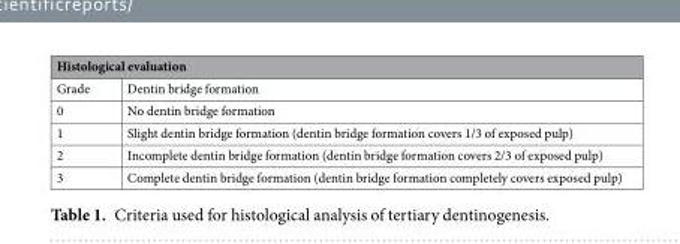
<table><thead><tr><td colspan="2">Histological evaluation</td></tr><tr><td>Grade</td><td>Dentin bridge formation</td></tr></thead><tbody><tr><td>0</td><td>No dentin bridge formation</td></tr><tr><td>1</td><td>Slight dentin bridge formation (dentin bridge formation covers 1/3 of exposed pulp)</td></tr><tr><td>2</td><td>Incomplete dentin bridge formation (dentin bridge formation covers 2/3 of exposed pulp)</td></tr><tr><td>3</td><td>Complete dentin bridge formation (dentin bridge formation completely covers exposed pulp)</td></tr></tbody></table>